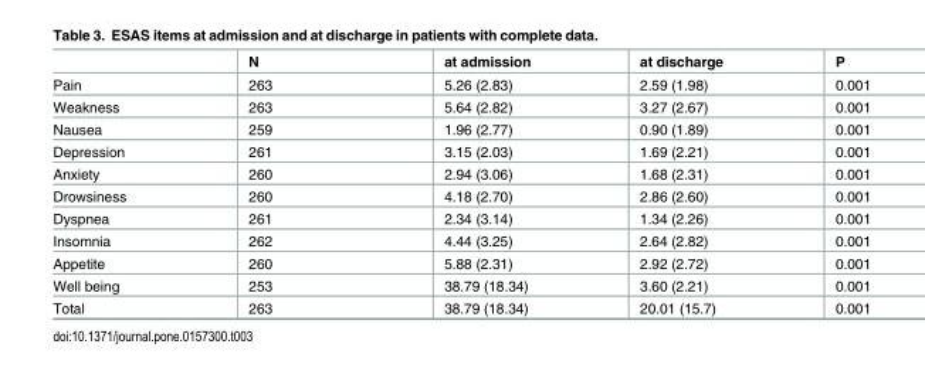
<table><thead><tr><td></td><td>N</td><td>at admission</td><td>at discharge</td><td>P</td></tr></thead><tbody><tr><td>Pain</td><td>263</td><td>5.26 (2.83)</td><td>2.59 (1.98)</td><td>0.001</td></tr><tr><td>Weakness</td><td>263</td><td>5.64 (2.82)</td><td>3.27 (2.67)</td><td>0.001</td></tr><tr><td>Nausea</td><td>259</td><td>1.96 (2.77)</td><td>0.90 (1.89)</td><td>0.001</td></tr><tr><td>Depression</td><td>261</td><td>3.15 (2.03)</td><td>1.69 (2.21)</td><td>0.001</td></tr><tr><td>Anxiety</td><td>260</td><td>2.94 (3.06)</td><td>1.68 (2.31)</td><td>0.001</td></tr><tr><td>Drowsiness</td><td>260</td><td>4.18 (2.70)</td><td>2.86 (2.60)</td><td>0.001</td></tr><tr><td>Dyspnea</td><td>261</td><td>2.34 (3.14)</td><td>1.34 (2.26)</td><td>0.001</td></tr><tr><td>Insomnia</td><td>262</td><td>4.44 (3.25)</td><td>2.64 (2.82)</td><td>0.001</td></tr><tr><td>Appetite</td><td>260</td><td>5.88 (2.31)</td><td>2.92 (2.72)</td><td>0.001</td></tr><tr><td>Well being</td><td>253</td><td>38.79 (18.34)</td><td>3.60 (2.21)</td><td>0.001</td></tr><tr><td>Total</td><td>263</td><td>38.79 (18.34)</td><td>20.01 (15.7)</td><td>0.001</td></tr></tbody></table>